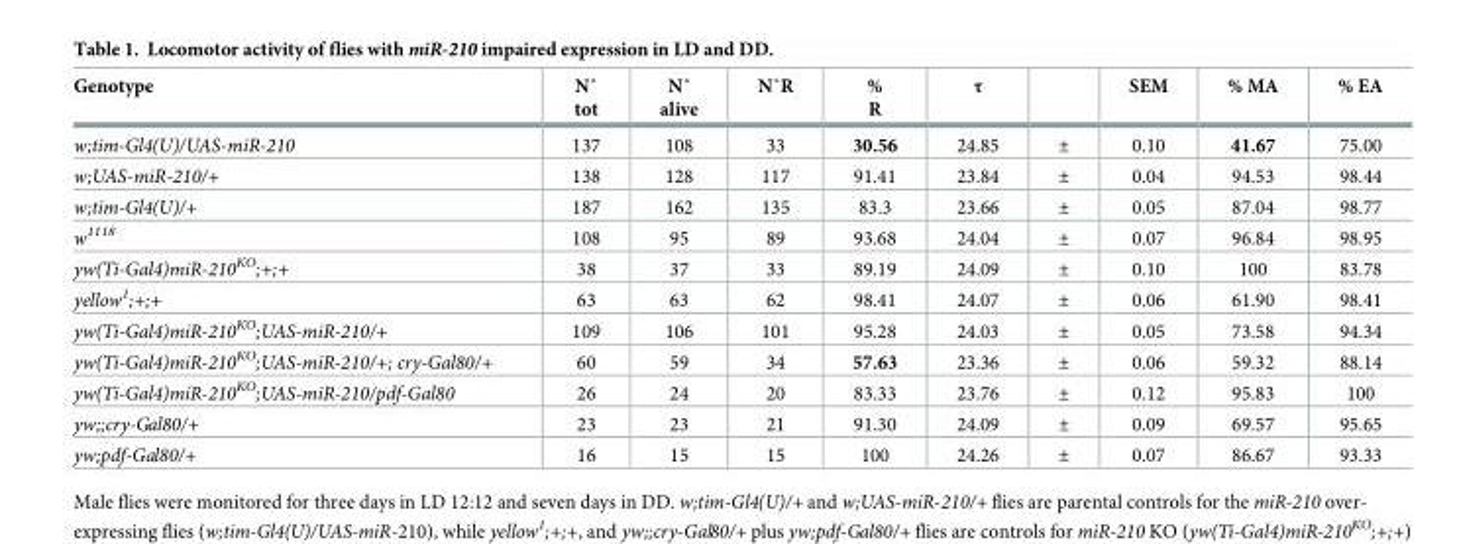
<table><thead><tr><td>Genotype</td><td>N˚ tot</td><td>N˚ alive</td><td>N˚R</td><td>% R</td><td>τ</td><td></td><td>SEM</td><td>% MA</td><td>% EA</td></tr></thead><tbody><tr><td>w;tim-Gl4(U)/UAS-miR-210</td><td>137</td><td>108</td><td>33</td><td>30.56</td><td>24.85</td><td>±</td><td>0.10</td><td>41.67</td><td>75.00</td></tr><tr><td>w;UAS-miR-210/+</td><td>138</td><td>128</td><td>117</td><td>91.41</td><td>23.84</td><td>±</td><td>0.04</td><td>94.53</td><td>98.44</td></tr><tr><td>w;tim-Gl4(U)/+</td><td>187</td><td>162</td><td>135</td><td>83.3</td><td>23.66</td><td>±</td><td>0.05</td><td>87.04</td><td>98.77</td></tr><tr><td>w<sup>1118</sup></td><td>108</td><td>95</td><td>89</td><td>93.68</td><td>24.04</td><td>±</td><td>0.07</td><td>96.84</td><td>98.95</td></tr><tr><td>yw(Ti-Gal4)miR-210<sup>KO</sup>;+;+</td><td>38</td><td>37</td><td>33</td><td>89.19</td><td>24.09</td><td>±</td><td>0.10</td><td>100</td><td>83.78</td></tr><tr><td>yellow<sup>1</sup>;+;+</td><td>63</td><td>63</td><td>62</td><td>98.41</td><td>24.07</td><td>±</td><td>0.06</td><td>61.90</td><td>98.41</td></tr><tr><td>yw(Ti-Gal4)miR-210<sup>KO</sup>;UAS-miR-210/+</td><td>109</td><td>106</td><td>101</td><td>95.28</td><td>24.03</td><td>±</td><td>0.05</td><td>73.58</td><td>94.34</td></tr><tr><td>yw(Ti-Gal4)miR-210<sup>KO</sup>;UAS-miR-210/+; cry-Gal80/+</td><td>60</td><td>59</td><td>34</td><td>57.63</td><td>23.36</td><td>±</td><td>0.06</td><td>59.32</td><td>88.14</td></tr><tr><td>yw(Ti-Gal4)miR-210<sup>KO</sup>;UAS-miR-210/pdf-Gal80</td><td>26</td><td>24</td><td>20</td><td>83.33</td><td>23.76</td><td>±</td><td>0.12</td><td>95.83</td><td>100</td></tr><tr><td>yw;;cry-Gal80/+</td><td>23</td><td>23</td><td>21</td><td>91.30</td><td>24.09</td><td>±</td><td>0.09</td><td>69.57</td><td>95.65</td></tr><tr><td>yw;pdf-Gal80/+</td><td>16</td><td>15</td><td>15</td><td>100</td><td>24.26</td><td>±</td><td>0.07</td><td>86.67</td><td>93.33</td></tr></tbody></table>